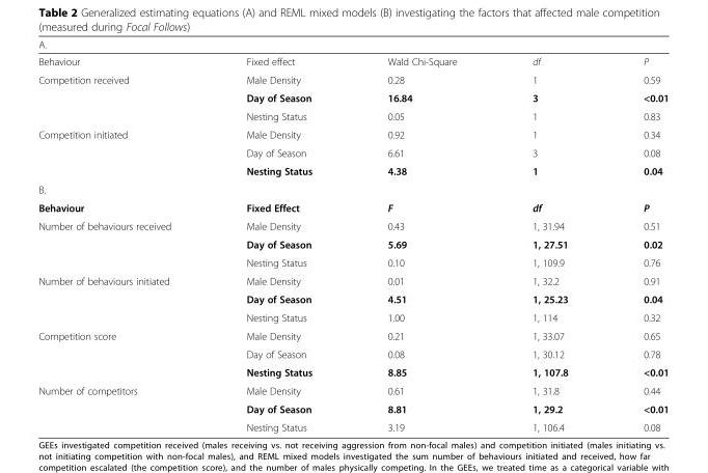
<table><thead><tr><td colspan="5">A.</td></tr><tr><td>Behaviour</td><td>Fixed effect</td><td>Wald Chi-Square</td><td>df</td><td>P</td></tr></thead><tbody><tr><td rowspan="3">Competition received</td><td>Male Density</td><td>0.28</td><td>1</td><td>0.59</td></tr><tr><td>Day of Season</td><td>16.84</td><td>3</td><td>&lt;0.01</td></tr><tr><td>Nesting Status</td><td>0.05</td><td>1</td><td>0.83</td></tr><tr><td rowspan="3">Competition initiated</td><td>Male Density</td><td>0.92</td><td>1</td><td>0.34</td></tr><tr><td>Day of Season</td><td>6.61</td><td>3</td><td>0.08</td></tr><tr><td>Nesting Status</td><td>4.38</td><td>1</td><td>0.04</td></tr><tr><td colspan="5">B.</td></tr><tr><td>Behaviour</td><td>Fixed Effect</td><td>F</td><td>df</td><td>P</td></tr><tr><td rowspan="3">Number of behaviours received</td><td>Male Density</td><td>0.43</td><td>1, 31.94</td><td>0.51</td></tr><tr><td>Day of Season</td><td>5.69</td><td>1, 27.51</td><td>0.02</td></tr><tr><td>Nesting Status</td><td>0.10</td><td>1, 109.9</td><td>0.76</td></tr><tr><td rowspan="3">Number of behaviours initiated</td><td>Male Density</td><td>0.01</td><td>1, 32.2</td><td>0.91</td></tr><tr><td>Day of Season</td><td>4.51</td><td>1, 25.23</td><td>0.04</td></tr><tr><td>Nesting Status</td><td>1.00</td><td>1, 114</td><td>0.32</td></tr><tr><td rowspan="3">Competition score</td><td>Male Density</td><td>0.21</td><td>1, 33.07</td><td>0.65</td></tr><tr><td>Day of Season</td><td>0.08</td><td>1, 30.12</td><td>0.78</td></tr><tr><td>Nesting Status</td><td>8.85</td><td>1, 107.8</td><td>&lt;0.01</td></tr><tr><td rowspan="3">Number of competitors</td><td>Male Density</td><td>0.61</td><td>1, 31.8</td><td>0.44</td></tr><tr><td>Day of Season</td><td>8.81</td><td>1, 29.2</td><td>&lt;0.01</td></tr><tr><td>Nesting Status</td><td>3.19</td><td>1, 106.4</td><td>0.08</td></tr></tbody></table>